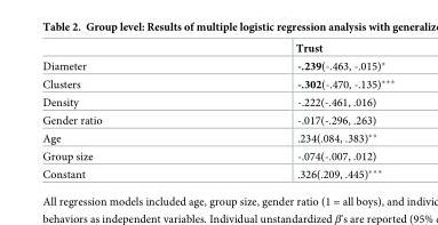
<table><thead><tr><td></td><td>Trust</td></tr></thead><tbody><tr><td>Diameter</td><td>-.239(-.463, -.015)*</td></tr><tr><td>Clusters</td><td>-.302(-.470, -.135)***</td></tr><tr><td>Density</td><td>-.222(-.461, .016)</td></tr><tr><td>Gender ratio</td><td>-.017(-.296, .263)</td></tr><tr><td>Age</td><td>.234(.084, .383)**</td></tr><tr><td>Group size</td><td>-.074(-.007, .012)</td></tr><tr><td>Constant</td><td>.326(.209, .445)***</td></tr></tbody></table>